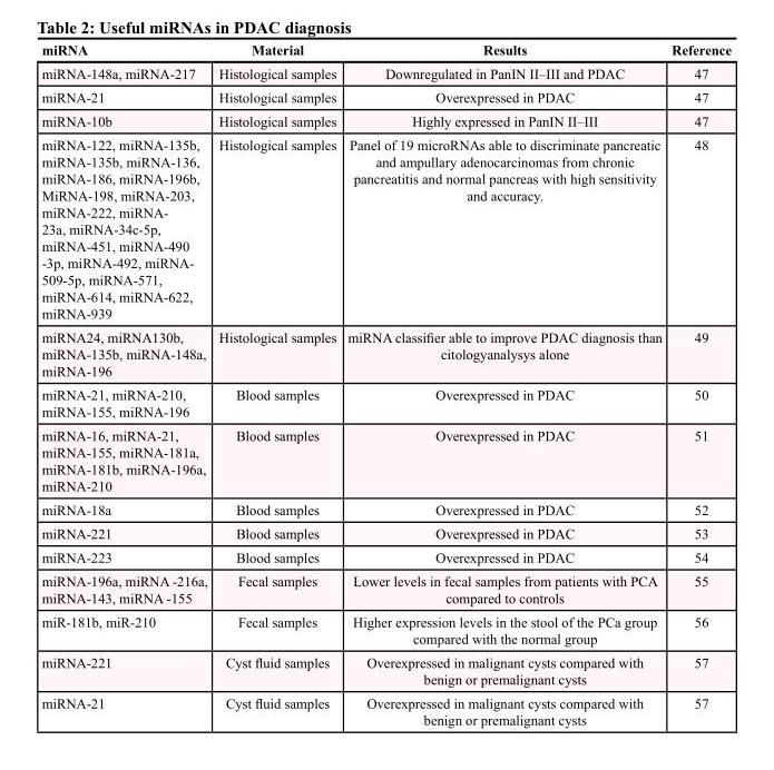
<table><thead><tr><td>miRNA</td><td>Material</td><td>Results</td><td>Reference</td></tr></thead><tbody><tr><td>miRNA-148a, miRNA-217</td><td>Histological samples</td><td>Downregulated in PanIN II–III and PDAC</td><td>47</td></tr><tr><td>miRNA-21</td><td>Histological samples</td><td>Overexpressed in PDAC</td><td>47</td></tr><tr><td>miRNA-10b</td><td>Histological samples</td><td>Highly expressed in PanIN II–III</td><td>47</td></tr><tr><td>miRNA-122, miRNA-135b, miRNA-135b, miRNA-136, miRNA-186, miRNA-196b, MiRNA-198, miRNA-203, miRNA-222, miRNA- 23a, miRNA-34c-5p, miRNA-451, miRNA-490 -3p, miRNA-492, miRNA- 509-5p, miRNA-571, miRNA-614, miRNA-622, miRNA-939</td><td>Histological samples</td><td>Panel of 19 microRNAs able to discriminate pancreatic and ampullary adenocarcinomas from chronic pancreatitis and normal pancreas with high sensitivity and accuracy.</td><td>48</td></tr><tr><td>miRNA24, miRNA130b, miRNA-135b, miRNA-148a, miRNA-196</td><td>Histological samples</td><td>miRNA classifier able to improve PDAC diagnosis than citologyanalysys alone</td><td>49</td></tr><tr><td>miRNA-21, miRNA-210, miRNA-155, miRNA-196</td><td>Blood samples</td><td>Overexpressed in PDAC</td><td>50</td></tr><tr><td>miRNA-16, miRNA-21, miRNA-155, miRNA-181a, miRNA-181b, miRNA-196a, miRNA-210</td><td>Blood samples</td><td>Overexpressed in PDAC</td><td>51</td></tr><tr><td>miRNA-18a</td><td>Blood samples</td><td>Overexpressed in PDAC</td><td>52</td></tr><tr><td>miRNA-221</td><td>Blood samples</td><td>Overexpressed in PDAC</td><td>53</td></tr><tr><td>miRNA-223</td><td>Blood samples</td><td>Overexpressed in PDAC</td><td>54</td></tr><tr><td>miRNA-196a, miRNA -216a, miRNA-143, miRNA -155</td><td>Fecal samples</td><td>Lower levels in fecal samples from patients with PCA compared to controls</td><td>55</td></tr><tr><td>miR-181b, miR-210</td><td>Fecal samples</td><td>Higher expression levels in the stool of the PCa group compared with the normal group</td><td>56</td></tr><tr><td>miRNA-221</td><td>Cyst fluid samples</td><td>Overexpressed in malignant cysts compared with benign or premalignant cysts</td><td>57</td></tr><tr><td>miRNA-21</td><td>Cyst fluid samples</td><td>Overexpressed in malignant cysts compared with benign or premalignant cysts</td><td>57</td></tr></tbody></table>